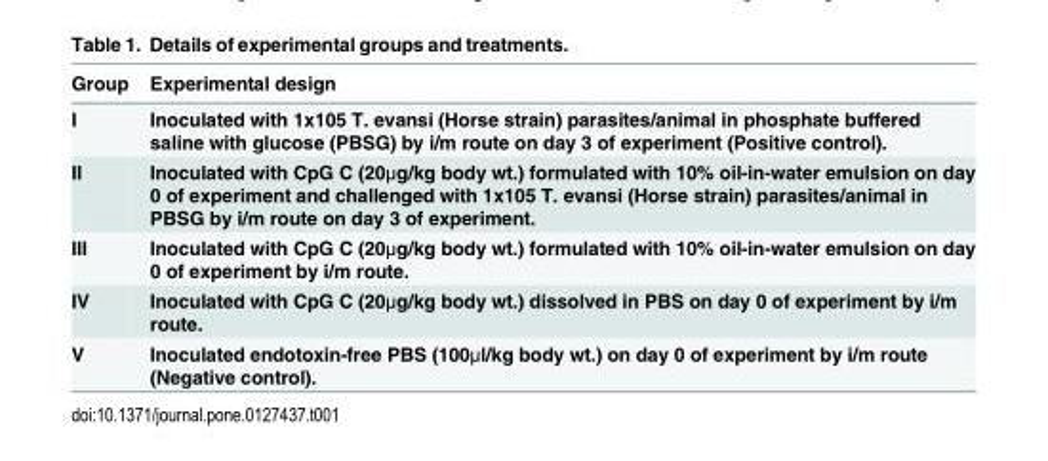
<table><thead><tr><td>Group</td><td>Experimental design</td></tr></thead><tbody><tr><td>I</td><td>Inoculated with 1x105 T. evansi (Horse strain) parasites/animal in phosphate buffered saline with glucose (PBSG) by i/m route on day 3 of experiment (Positive control).</td></tr><tr><td>II</td><td>Inoculated with CpG C (20μg/kg body wt.) formulated with 10% oil-in-water emulsion on day 0 of experiment and challenged with 1x105 T. evansi (Horse strain) parasites/animal in PBSG by i/m route on day 3 of experiment.</td></tr><tr><td>III</td><td>Inoculated with CpG C (20μg/kg body wt.) formulated with 10% oil-in-water emulsion on day 0 of experiment by i/m route.</td></tr><tr><td>IV</td><td>Inoculated with CpG C (20μg/kg body wt.) dissolved in PBS on day 0 of experiment by i/m route.</td></tr><tr><td>V</td><td>Inoculated endotoxin-free PBS (100μl/kg body wt.) on day 0 of experiment by i/m route (Negative control).</td></tr></tbody></table>